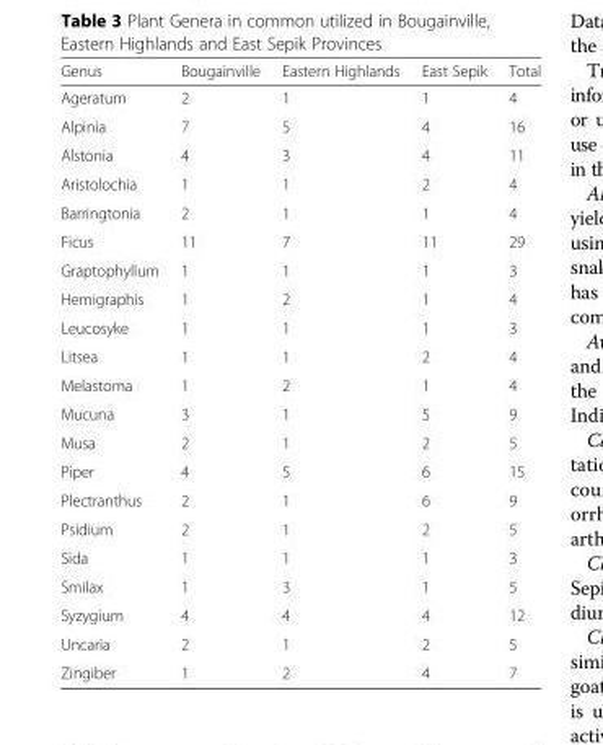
<table><thead><tr><td>Genus</td><td>Bougainville</td><td>Eastern Highlands</td><td>East Sepik</td><td>Total</td></tr></thead><tbody><tr><td>Ageratum</td><td>2</td><td>1</td><td>1</td><td>4</td></tr><tr><td>Alpinia</td><td>7</td><td>5</td><td>4</td><td>16</td></tr><tr><td>Alstonia</td><td>4</td><td>3</td><td>4</td><td>11</td></tr><tr><td>Aristolochia</td><td>1</td><td>1</td><td>2</td><td>4</td></tr><tr><td>Barringtonia</td><td>2</td><td>1</td><td>1</td><td>4</td></tr><tr><td>Ficus</td><td>11</td><td>7</td><td>11</td><td>29</td></tr><tr><td>Graptophyllum</td><td>1</td><td>1</td><td>1</td><td>3</td></tr><tr><td>Hemigraphis</td><td>1</td><td>2</td><td>1</td><td>4</td></tr><tr><td>Leucosyke</td><td>1</td><td>1</td><td>1</td><td>3</td></tr><tr><td>Litsea</td><td>1</td><td>1</td><td>2</td><td>4</td></tr><tr><td>Melastoma</td><td>1</td><td>2</td><td>1</td><td>4</td></tr><tr><td>Mucuna</td><td>3</td><td>1</td><td>5</td><td>9</td></tr><tr><td>Musa</td><td>2</td><td>1</td><td>2</td><td>5</td></tr><tr><td>Piper</td><td>4</td><td>5</td><td>6</td><td>15</td></tr><tr><td>Plectranthus</td><td>2</td><td>1</td><td>6</td><td>9</td></tr><tr><td>Psidium</td><td>2</td><td>1</td><td>2</td><td>5</td></tr><tr><td>Sida</td><td>1</td><td>1</td><td>1</td><td>3</td></tr><tr><td>Smilax</td><td>1</td><td>3</td><td>1</td><td>5</td></tr><tr><td>Syzygium</td><td>4</td><td>4</td><td>4</td><td>12</td></tr><tr><td>Uncaria</td><td>2</td><td>1</td><td>2</td><td>5</td></tr><tr><td>Zingiber</td><td>1</td><td>2</td><td>4</td><td>7</td></tr></tbody></table>